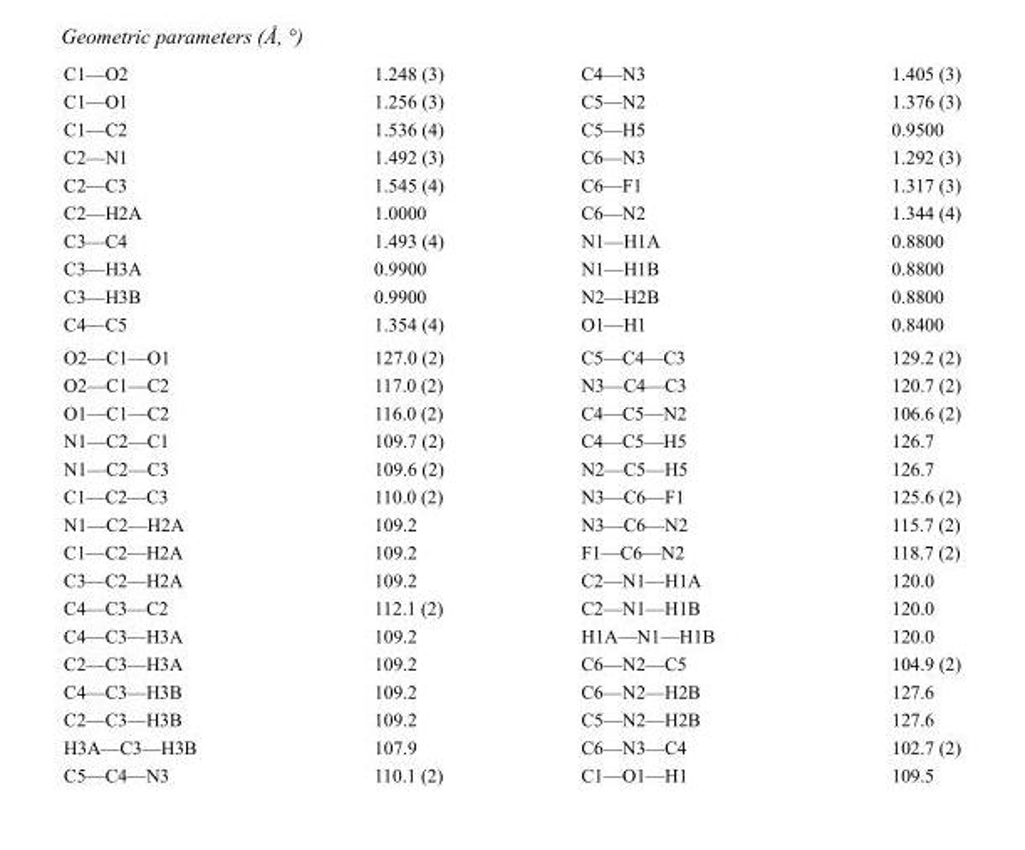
<table><tbody><tr><td>C1—O2</td><td>1.248 (3)</td><td>C4—N3</td><td>1.405 (3)</td></tr><tr><td>C1—O1</td><td>1.256 (3)</td><td>C5—N2</td><td>1.376 (3)</td></tr><tr><td>C1—C2</td><td>1.536 (4)</td><td>C5—H5</td><td>0.9500</td></tr><tr><td>C2—N1</td><td>1.492 (3)</td><td>C6—N3</td><td>1.292 (3)</td></tr><tr><td>C2—C3</td><td>1.545 (4)</td><td>C6—F1</td><td>1.317 (3)</td></tr><tr><td>C2—H2A</td><td>1.0000</td><td>C6—N2</td><td>1.344 (4)</td></tr><tr><td>C3—C4</td><td>1.493 (4)</td><td>N1—H1A</td><td>0.8800</td></tr><tr><td>C3—H3A</td><td>0.9900</td><td>N1—H1B</td><td>0.8800</td></tr><tr><td>C3—H3B</td><td>0.9900</td><td>N2—H2B</td><td>0.8800</td></tr><tr><td>C4—C5</td><td>1.354 (4)</td><td>O1—H1</td><td>0.8400</td></tr><tr><td>O2—C1—O1</td><td>127.0 (2)</td><td>C5—C4—C3</td><td>129.2 (2)</td></tr><tr><td>O2—C1—C2</td><td>117.0 (2)</td><td>N3—C4—C3</td><td>120.7 (2)</td></tr><tr><td>O1—C1—C2</td><td>116.0 (2)</td><td>C4—C5—N2</td><td>106.6 (2)</td></tr><tr><td>N1—C2—C1</td><td>109.7 (2)</td><td>C4—C5—H5</td><td>126.7</td></tr><tr><td>N1—C2—C3</td><td>109.6 (2)</td><td>N2—C5—H5</td><td>126.7</td></tr><tr><td>C1—C2—C3</td><td>110.0 (2)</td><td>N3—C6—F1</td><td>125.6 (2)</td></tr><tr><td>N1—C2—H2A</td><td>109.2</td><td>N3—C6—N2</td><td>115.7 (2)</td></tr><tr><td>C1—C2—H2A</td><td>109.2</td><td>F1—C6—N2</td><td>118.7 (2)</td></tr><tr><td>C3—C2—H2A</td><td>109.2</td><td>C2—N1—H1A</td><td>120.0</td></tr><tr><td>C4—C3—C2</td><td>112.1 (2)</td><td>C2—N1—H1B</td><td>120.0</td></tr><tr><td>C4—C3—H3A</td><td>109.2</td><td>H1A—N1—H1B</td><td>120.0</td></tr><tr><td>C2—C3—H3A</td><td>109.2</td><td>C6—N2—C5</td><td>104.9 (2)</td></tr><tr><td>C4—C3—H3B</td><td>109.2</td><td>C6—N2—H2B</td><td>127.6</td></tr><tr><td>C2—C3—H3B</td><td>109.2</td><td>C5—N2—H2B</td><td>127.6</td></tr><tr><td>H3A—C3—H3B</td><td>107.9</td><td>C6—N3—C4</td><td>102.7 (2)</td></tr><tr><td>C5—C4—N3</td><td>110.1 (2)</td><td>C1—O1—H1</td><td>109.5</td></tr></tbody></table>